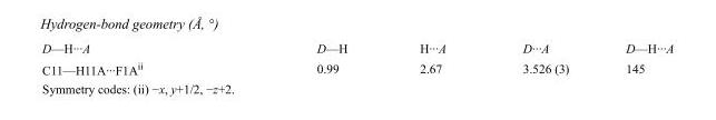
<table><tbody><tr><td>D—H···A</td><td>D—H</td><td>H···A</td><td>D···A</td><td>D—H···A</td></tr><tr><td>C11—H11A···F1A<sup>ii</sup></td><td>0.99</td><td>2.67</td><td>3.526 (3)</td><td>145</td></tr></tbody></table>